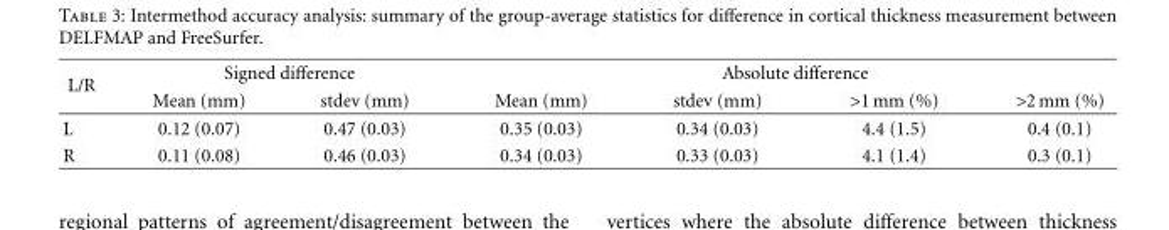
<table><thead><tr><td rowspan="2">L/R</td><td colspan="2">Signed difference</td><td colspan="4">Absolute difference</td></tr><tr><td>Mean (mm)</td><td>stdev (mm)</td><td>Mean (mm)</td><td>stdev (mm)</td><td>&gt;1 mm (%)</td><td>&gt;2 mm (%)</td></tr></thead><tbody><tr><td>L</td><td>0.12 (0.07)</td><td>0.47 (0.03)</td><td>0.35 (0.03)</td><td>0.34 (0.03)</td><td>4.4 (1.5)</td><td>0.4 (0.1)</td></tr><tr><td>R</td><td>0.11 (0.08)</td><td>0.46 (0.03)</td><td>0.34 (0.03)</td><td>0.33 (0.03)</td><td>4.1 (1.4)</td><td>0.3 (0.1)</td></tr></tbody></table>